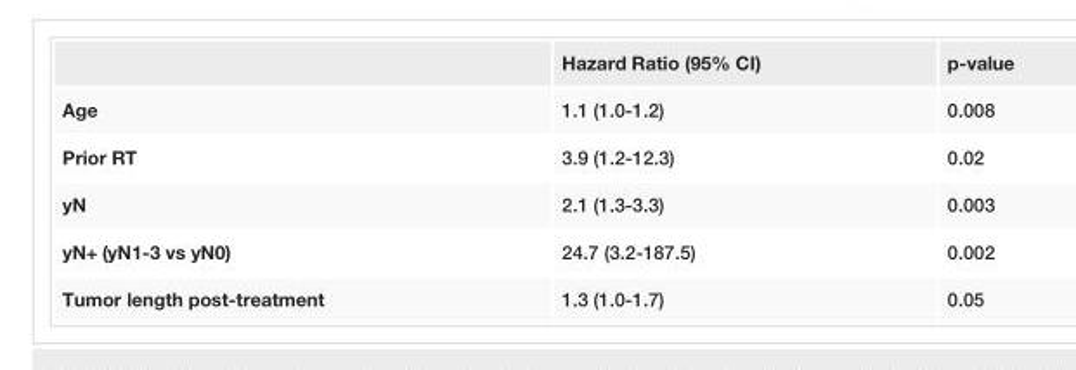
<table><thead><tr><td></td><td>Hazard Ratio (95% CI)</td><td>p-value</td></tr></thead><tbody><tr><td>Age</td><td>1.1 (1.0-1.2)</td><td>0.008</td></tr><tr><td>Prior RT</td><td>3.9 (1.2-12.3)</td><td>0.02</td></tr><tr><td>yN</td><td>2.1 (1.3-3.3)</td><td>0.003</td></tr><tr><td>yN+ (yN1-3 vs yN0)</td><td>24.7 (3.2-187.5)</td><td>0.002</td></tr><tr><td>Tumor length post-treatment</td><td>1.3 (1.0-1.7)</td><td>0.05</td></tr></tbody></table>